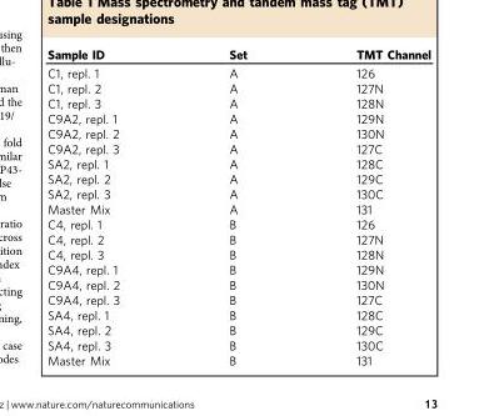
<table><thead><tr><td>Sample ID</td><td>Set</td><td>TMT Channel</td></tr></thead><tbody><tr><td>C1, repl. 1</td><td>A</td><td>126</td></tr><tr><td>C1, repl. 2</td><td>A</td><td>127N</td></tr><tr><td>C1, repl. 3</td><td>A</td><td>128N</td></tr><tr><td>C9A2, repl. 1</td><td>A</td><td>129N</td></tr><tr><td>C9A2, repl. 2</td><td>A</td><td>130N</td></tr><tr><td>C9A2, repl. 3</td><td>A</td><td>127C</td></tr><tr><td>SA2, repl. 1</td><td>A</td><td>128C</td></tr><tr><td>SA2, repl. 2</td><td>A</td><td>129C</td></tr><tr><td>SA2, repl. 3</td><td>A</td><td>130C</td></tr><tr><td>Master Mix</td><td>A</td><td>131</td></tr><tr><td>C4, repl. 1</td><td>B</td><td>126</td></tr><tr><td>C4, repl. 2</td><td>B</td><td>127N</td></tr><tr><td>C4, repl. 3</td><td>B</td><td>128N</td></tr><tr><td>C9A4, repl. 1</td><td>B</td><td>129N</td></tr><tr><td>C9A4, repl. 2</td><td>B</td><td>130N</td></tr><tr><td>C9A4, repl. 3</td><td>B</td><td>127C</td></tr><tr><td>SA4, repl. 1</td><td>B</td><td>128C</td></tr><tr><td>SA4, repl. 2</td><td>B</td><td>129C</td></tr><tr><td>SA4, repl. 3</td><td>B</td><td>130C</td></tr><tr><td>Master Mix</td><td>B</td><td>131</td></tr></tbody></table>